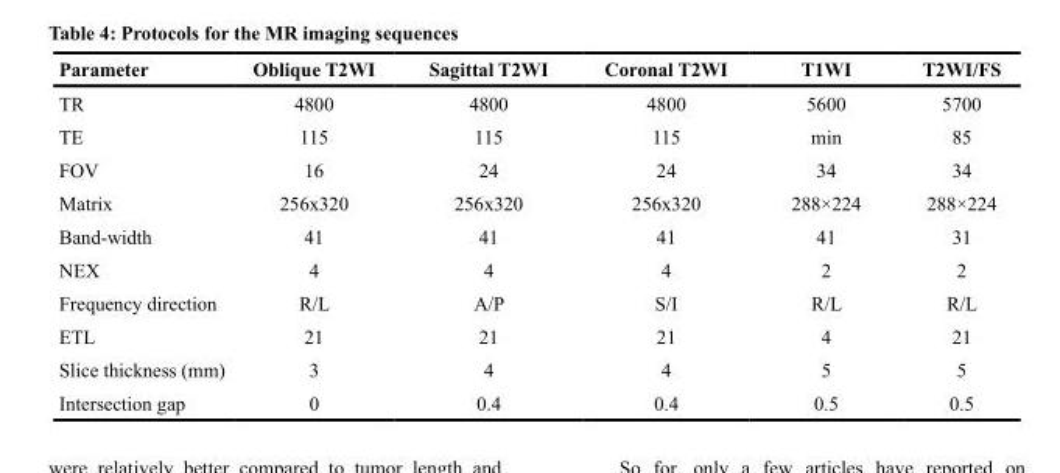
<table><thead><tr><td>Parameter</td><td>Oblique T2WI</td><td>Sagittal T2WI</td><td>Coronal T2WI</td><td>T1WI</td><td>T2WI/FS</td></tr></thead><tbody><tr><td>TR</td><td>4800</td><td>4800</td><td>4800</td><td>5600</td><td>5700</td></tr><tr><td>TE</td><td>115</td><td>115</td><td>115</td><td>min</td><td>85</td></tr><tr><td>FOV</td><td>16</td><td>24</td><td>24</td><td>34</td><td>34</td></tr><tr><td>Matrix</td><td>256x320</td><td>256x320</td><td>256x320</td><td>288×224</td><td>288×224</td></tr><tr><td>Band-width</td><td>41</td><td>41</td><td>41</td><td>41</td><td>31</td></tr><tr><td>NEX</td><td>4</td><td>4</td><td>4</td><td>2</td><td>2</td></tr><tr><td>Frequency direction</td><td>R/L</td><td>A/P</td><td>S/I</td><td>R/L</td><td>R/L</td></tr><tr><td>ETL</td><td>21</td><td>21</td><td>21</td><td>4</td><td>21</td></tr><tr><td>Slice thickness (mm)</td><td>3</td><td>4</td><td>4</td><td>5</td><td>5</td></tr><tr><td>Intersection gap</td><td>0</td><td>0.4</td><td>0.4</td><td>0.5</td><td>0.5</td></tr></tbody></table>